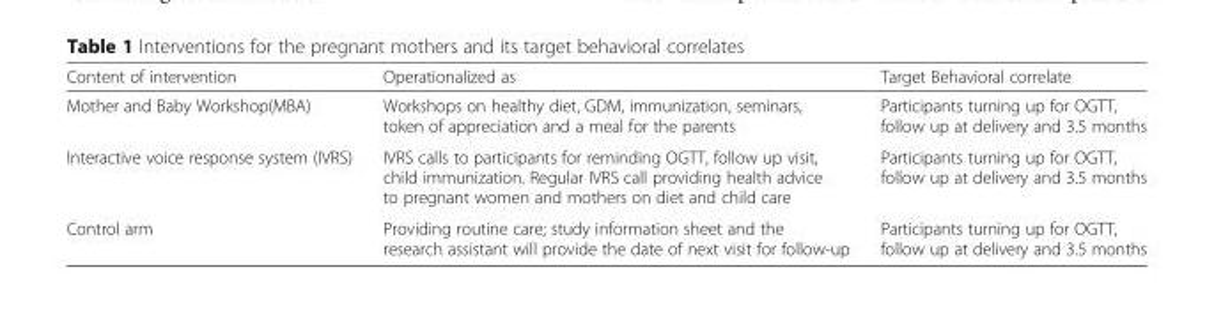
<table><thead><tr><td>Content of intervention</td><td>Operationalized as</td><td>Target Behavioral correlate</td></tr></thead><tbody><tr><td>Mother and Baby Workshop(MBA)</td><td>Workshops on healthy diet, GDM, immunization, seminars, token of appreciation and a meal for the parents</td><td>Participants turning up for OGTT, follow up at delivery and 3.5 months</td></tr><tr><td>Interactive voice response system (IVRS)</td><td>IVRS calls to participants for reminding OGTT, follow up visit, child immunization. Regular IVRS call providing health advice to pregnant women and mothers on diet and child care</td><td>Participants turning up for OGTT, follow up at delivery and 3.5 months</td></tr><tr><td>Control arm</td><td>Providing routine care; study information sheet and the research assistant will provide the date of next visit for follow-up</td><td>Participants turning up for OGTT, follow up at delivery and 3.5 months</td></tr></tbody></table>